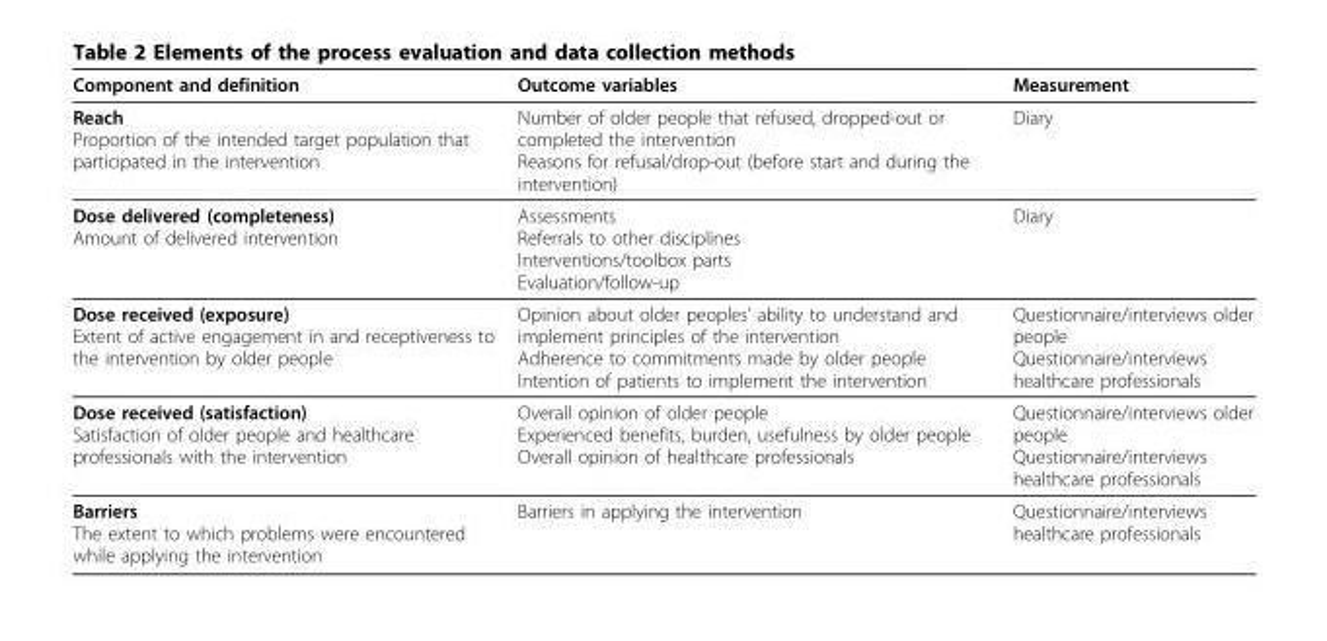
<table><thead><tr><td>Component and definition</td><td>Outcome variables</td><td>Measurement</td></tr></thead><tbody><tr><td>Reach Proportion of the intended target population that participated in the intervention</td><td>Number of older people that refused, dropped-out or completed the intervention Reasons for refusal/drop-out (before start and during the intervention)</td><td>Diary</td></tr><tr><td>Dose delivered (completeness) Amount of delivered intervention</td><td>Assessments Referrals to other disciplines Interventions/toolbox parts Evaluation/follow-up</td><td>Diary</td></tr><tr><td>Dose received (exposure) Extent of active engagement in and receptiveness to the intervention by older people</td><td>Opinion about older peoples’ ability to understand and implement principles of the intervention Adherence to commitments made by older people Intention of patients to implement the intervention</td><td>Questionnaire/interviews older people Questionnaire/interviews healthcare professionals</td></tr><tr><td>Dose received (satisfaction) Satisfaction of older people and healthcare professionals with the intervention</td><td>Overall opinion of older people Experienced benefits, burden, usefulness by older people Overall opinion of healthcare professionals</td><td>Questionnaire/interviews older people Questionnaire/interviews healthcare professionals</td></tr><tr><td>Barriers The extent to which problems were encountered while applying the intervention</td><td>Barriers in applying the intervention</td><td>Questionnaire/interviews healthcare professionals</td></tr></tbody></table>